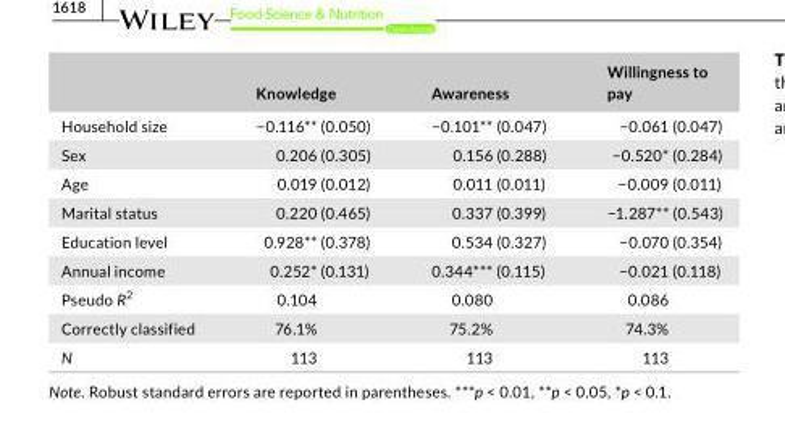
<table><thead><tr><td></td><td>Knowledge</td><td>Awareness</td><td>Willingness to pay</td></tr></thead><tbody><tr><td>Household size</td><td>−0.116** (0.050)</td><td>−0.101** (0.047)</td><td>−0.061 (0.047)</td></tr><tr><td>Sex</td><td>0.206 (0.305)</td><td>0.156 (0.288)</td><td>−0.520* (0.284)</td></tr><tr><td>Age</td><td>0.019 (0.012)</td><td>0.011 (0.011)</td><td>−0.009 (0.011)</td></tr><tr><td>Marital status</td><td>0.220 (0.465)</td><td>0.337 (0.399)</td><td>−1.287** (0.543)</td></tr><tr><td>Education level</td><td>0.928** (0.378)</td><td>0.534 (0.327)</td><td>−0.070 (0.354)</td></tr><tr><td>Annual income</td><td>0.252* (0.131)</td><td>0.344*** (0.115)</td><td>−0.021 (0.118)</td></tr><tr><td>Pseudo R<sup>2</sup></td><td>0.104</td><td>0.080</td><td>0.086</td></tr><tr><td>Correctly classified</td><td>76.1%</td><td>75.2%</td><td>74.3%</td></tr><tr><td>N</td><td>113</td><td>113</td><td>113</td></tr></tbody></table>